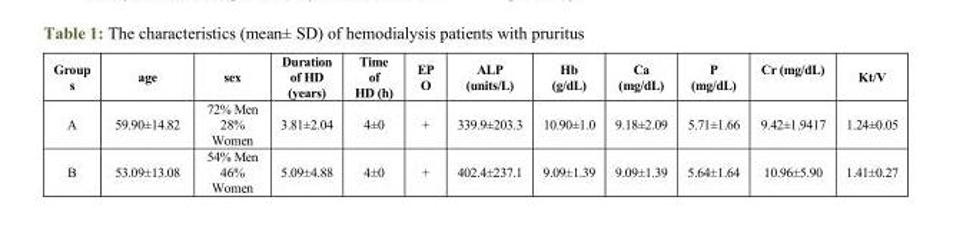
<table><thead><tr><td>Group s</td><td>age</td><td>sex</td><td>Duration of HD (years)</td><td>Time of HD (h)</td><td>EP O</td><td>ALP (units/L)</td><td>Hb (g/dL)</td><td>Ca (mg/dL)</td><td>P (mg/dL)</td><td>Cr (mg/dL)</td><td>Kt/V</td></tr></thead><tbody><tr><td>A</td><td>59.90±14.82</td><td>72% Men 28% Women</td><td>3.81±2.04</td><td>4±0</td><td>+</td><td>339.9±203.3</td><td>10.90±1.0</td><td>9.18±2.09</td><td>5.71±1.66</td><td>9.42±1.9417</td><td>1.24±0.05</td></tr><tr><td>B</td><td>53.09±13.08</td><td>54% Men 46% Women</td><td>5.09±4.88</td><td>4±0</td><td>+</td><td>402.4±237.1</td><td>9.09±1.39</td><td>9.09±1.39</td><td>5.64±1.64</td><td>10.96±5.90</td><td>1.41±0.27</td></tr></tbody></table>